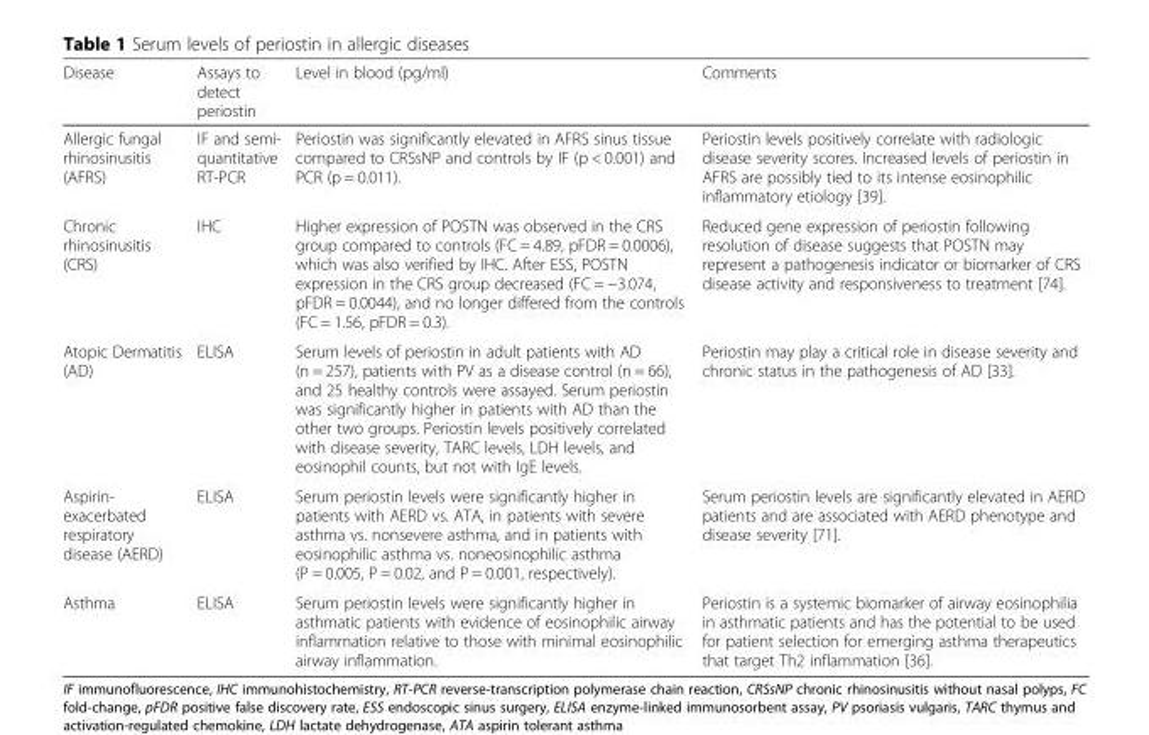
<table><thead><tr><td>Disease</td><td>Assays to detect periostin</td><td>Level in blood (pg/ml)</td><td>Comments</td></tr></thead><tbody><tr><td>Allergic fungal rhinosinusitis (AFRS)</td><td>IF and semi- quantitative RT-PCR</td><td>Periostin was significantly elevated in AFRS sinus tissue compared to CRSsNP and controls by IF (p &lt; 0.001) and PCR (p = 0.011).</td><td>Periostin levels positively correlate with radiologic disease severity scores. Increased levels of periostin in AFRS are possibly tied to its intense eosinophilic inflammatory etiology [39].</td></tr><tr><td>Chronic rhinosinusitis (CRS)</td><td>IHC</td><td>Higher expression of POSTN was observed in the CRS group compared to controls (FC = 4.89, pFDR = 0.0006), which was also verified by IHC. After ESS, POSTN expression in the CRS group decreased (FC = −3.074, pFDR = 0.0044), and no longer differed from the controls (FC = 1.56, pFDR = 0.3).</td><td>Reduced gene expression of periostin following resolution of disease suggests that POSTN may represent a pathogenesis indicator or biomarker of CRS disease activity and responsiveness to treatment [74].</td></tr><tr><td>Atopic Dermatitis (AD)</td><td>ELISA</td><td>Serum levels of periostin in adult patients with AD (n = 257), patients with PV as a disease control (n = 66), and 25 healthy controls were assayed. Serum periostin was significantly higher in patients with AD than the other two groups. Periostin levels positively correlated with disease severity, TARC levels, LDH levels, and eosinophil counts, but not with IgE levels.</td><td>Periostin may play a critical role in disease severity and chronic status in the pathogenesis of AD [33].</td></tr><tr><td>Aspirin- exacerbated respiratory disease (AERD)</td><td>ELISA</td><td>Serum periostin levels were significantly higher in patients with AERD vs. ATA, in patients with severe asthma vs. nonsevere asthma, and in patients with eosinophilic asthma vs. noneosinophilic asthma (P = 0.005, P = 0.02, and P = 0.001, respectively).</td><td>Serum periostin levels are significantly elevated in AERD patients and are associated with AERD phenotype and disease severity [71].</td></tr><tr><td>Asthma</td><td>ELISA</td><td>Serum periostin levels were significantly higher in asthmatic patients with evidence of eosinophilic airway inflammation relative to those with minimal eosinophilic airway inflammation.</td><td>Periostin is a systemic biomarker of airway eosinophilia in asthmatic patients and has the potential to be used for patient selection for emerging asthma therapeutics that target Th2 inflammation [36].</td></tr></tbody></table>